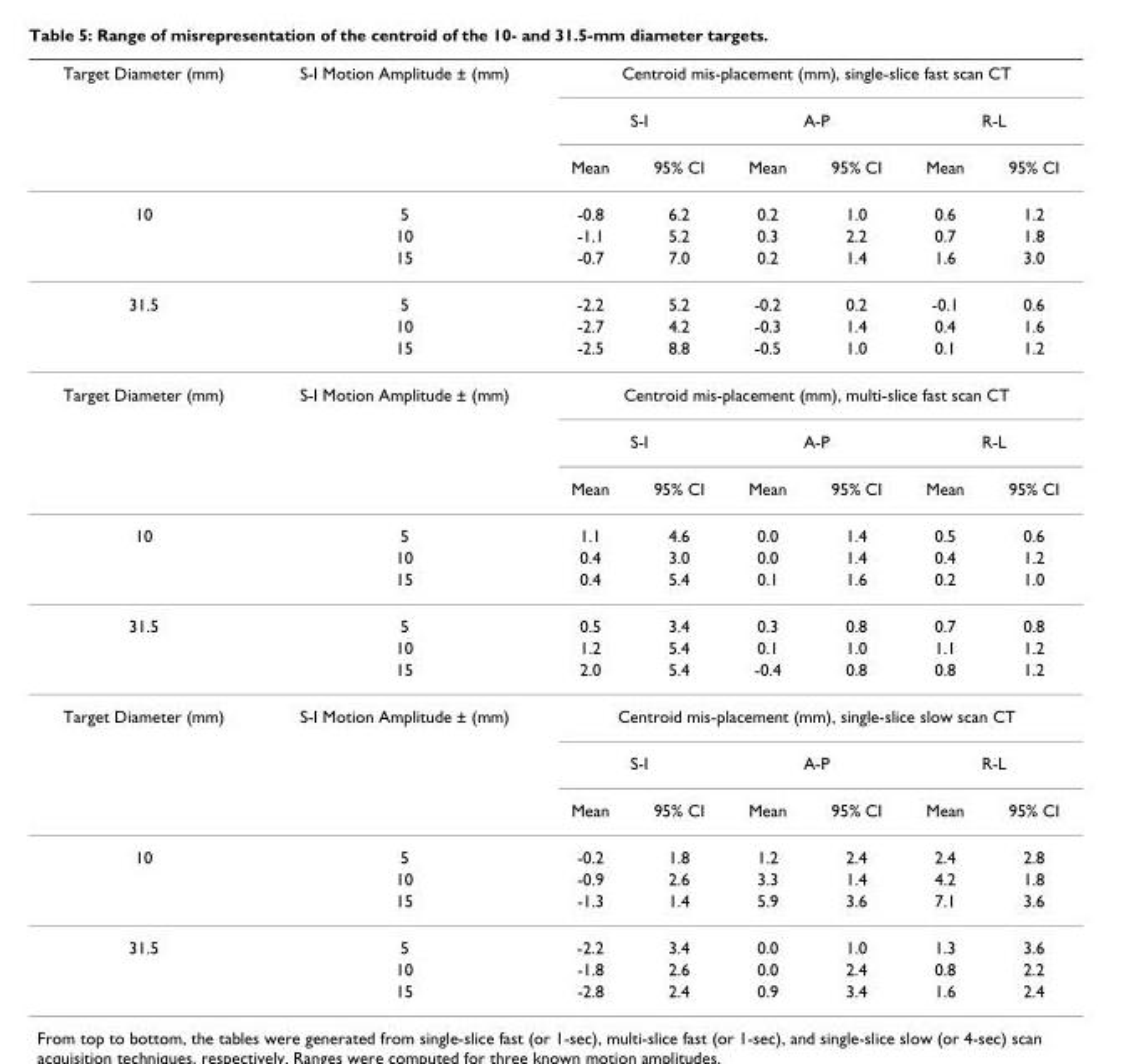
<table><thead><tr><td rowspan="3">Target Diameter (mm)</td><td rowspan="3">S-I Motion Amplitude ± (mm)</td><td colspan="6">Centroid mis-placement (mm), single-slice fast scan CT</td></tr><tr><td colspan="2">S-I</td><td colspan="2">A-P</td><td colspan="2">R-L</td></tr><tr><td>Mean</td><td>95% CI</td><td>Mean</td><td>95% CI</td><td>Mean</td><td>95% CI</td></tr></thead><tbody><tr><td rowspan="3">10</td><td>5</td><td>-0.8</td><td>6.2</td><td>0.2</td><td>1.0</td><td>0.6</td><td>1.2</td></tr><tr><td>10</td><td>-1.1</td><td>5.2</td><td>0.3</td><td>2.2</td><td>0.7</td><td>1.8</td></tr><tr><td>15</td><td>-0.7</td><td>7.0</td><td>0.2</td><td>1.4</td><td>1.6</td><td>3.0</td></tr><tr><td rowspan="3">31.5</td><td>5</td><td>-2.2</td><td>5.2</td><td>-0.2</td><td>0.2</td><td>-0.1</td><td>0.6</td></tr><tr><td>10</td><td>-2.7</td><td>4.2</td><td>-0.3</td><td>1.4</td><td>0.4</td><td>1.6</td></tr><tr><td>15</td><td>-2.5</td><td>8.8</td><td>-0.5</td><td>1.0</td><td>0.1</td><td>1.2</td></tr><tr><td rowspan="3">Target Diameter (mm)</td><td>S-I Motion Amplitude ± (mm)</td><td colspan="6">Centroid mis-placement (mm), multi-slice fast scan CT</td></tr><tr><td></td><td colspan="2">S-I</td><td colspan="2">A-P</td><td colspan="2">R-L</td></tr><tr><td></td><td>Mean</td><td>95% CI</td><td>Mean</td><td>95% CI</td><td>Mean</td><td>95% CI</td></tr><tr><td rowspan="3">10</td><td>5</td><td>1.1</td><td>4.6</td><td>0.0</td><td>1.4</td><td>0.5</td><td>0.6</td></tr><tr><td>10</td><td>0.4</td><td>3.0</td><td>0.0</td><td>1.4</td><td>0.4</td><td>1.2</td></tr><tr><td>15</td><td>0.4</td><td>5.4</td><td>0.1</td><td>1.6</td><td>0.2</td><td>1.0</td></tr><tr><td rowspan="3">31.5</td><td>5</td><td>0.5</td><td>3.4</td><td>0.3</td><td>0.8</td><td>0.7</td><td>0.8</td></tr><tr><td>10</td><td>1.2</td><td>5.4</td><td>0.1</td><td>1.0</td><td>1.1</td><td>1.2</td></tr><tr><td>15</td><td>2.0</td><td>5.4</td><td>-0.4</td><td>0.8</td><td>0.8</td><td>1.2</td></tr><tr><td rowspan="3">Target Diameter (mm)</td><td>S-I Motion Amplitude ± (mm)</td><td colspan="6">Centroid mis-placement (mm), single-slice slow scan CT</td></tr><tr><td></td><td colspan="2">S-I</td><td colspan="2">A-P</td><td colspan="2">R-L</td></tr><tr><td></td><td>Mean</td><td>95% CI</td><td>Mean</td><td>95% CI</td><td>Mean</td><td>95% CI</td></tr><tr><td rowspan="3">10</td><td>5</td><td>-0.2</td><td>1.8</td><td>1.2</td><td>2.4</td><td>2.4</td><td>2.8</td></tr><tr><td>10</td><td>-0.9</td><td>2.6</td><td>3.3</td><td>1.4</td><td>4.2</td><td>1.8</td></tr><tr><td>15</td><td>-1.3</td><td>1.4</td><td>5.9</td><td>3.6</td><td>7.1</td><td>3.6</td></tr><tr><td rowspan="3">31.5</td><td>5</td><td>-2.2</td><td>3.4</td><td>0.0</td><td>1.0</td><td>1.3</td><td>3.6</td></tr><tr><td>10</td><td>-1.8</td><td>2.6</td><td>0.0</td><td>2.4</td><td>0.8</td><td>2.2</td></tr><tr><td>15</td><td>-2.8</td><td>2.4</td><td>0.9</td><td>3.4</td><td>1.6</td><td>2.4</td></tr></tbody></table>